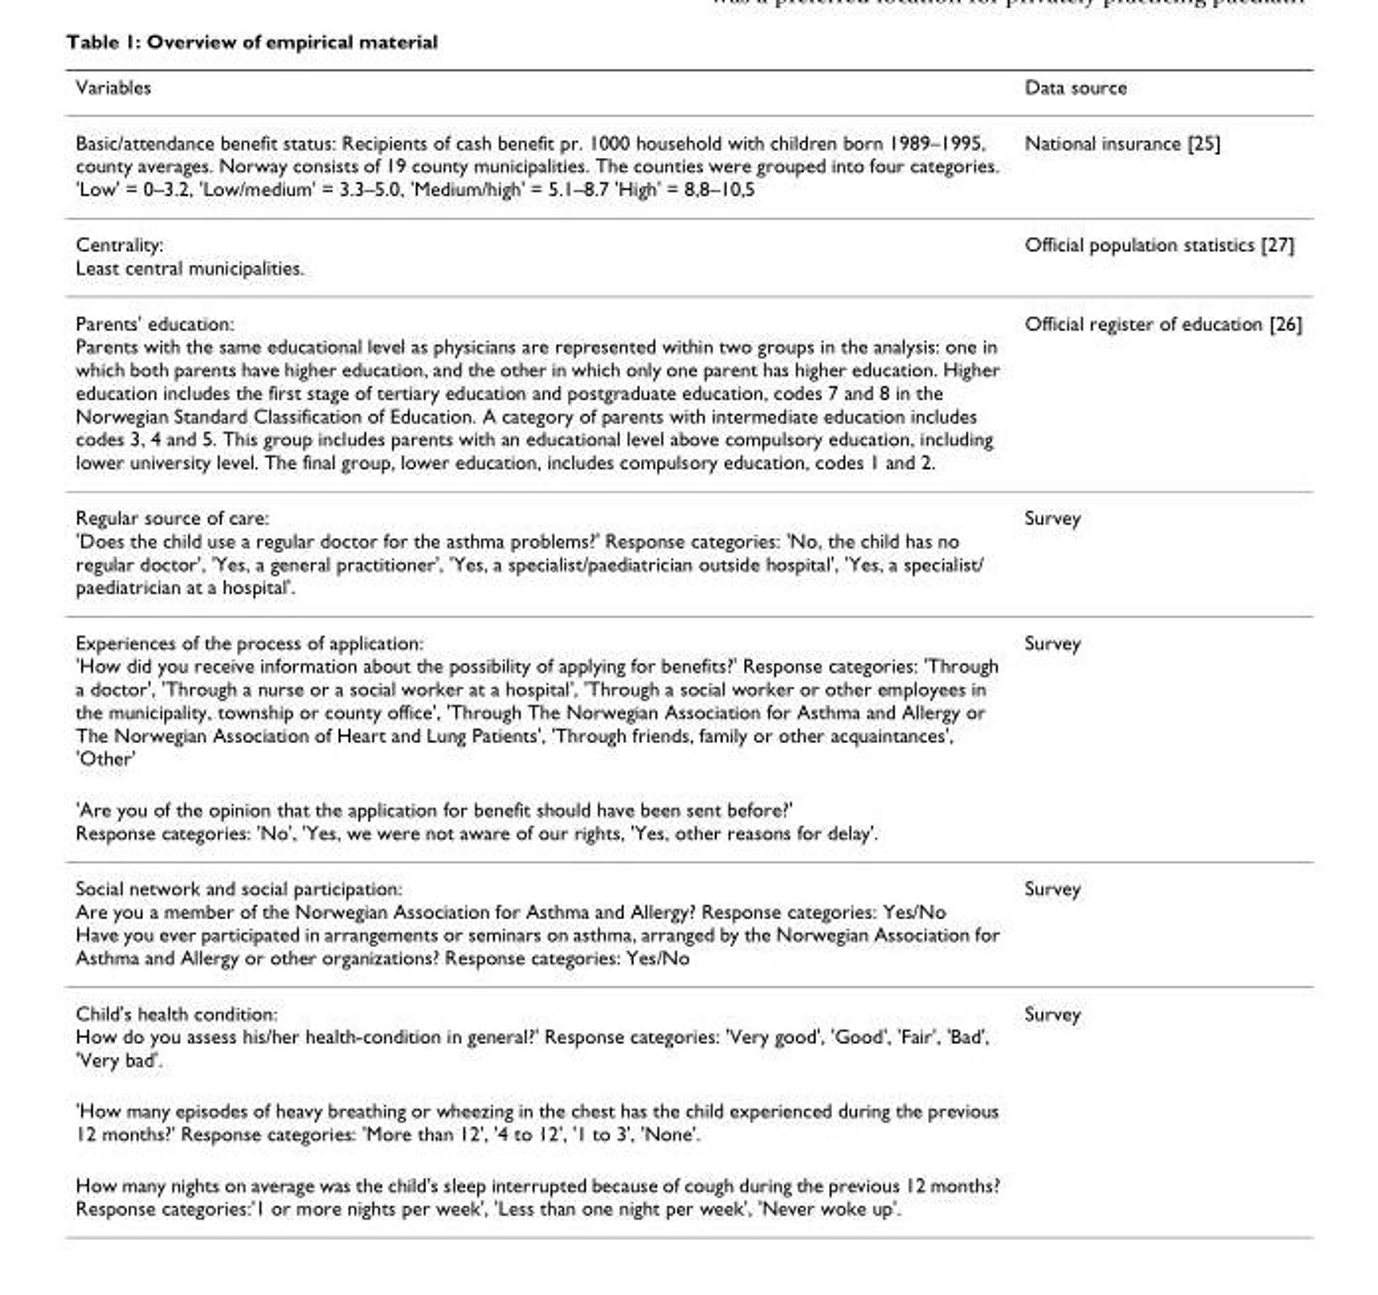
<table><thead><tr><td>Variables</td><td>Data source</td></tr></thead><tbody><tr><td>Basic/attendance benefit status: Recipients of cash benefit pr. 1000 household with children born 1989–1995, county averages. Norway consists of 19 county municipalities. The counties were grouped into four categories. &#x27;Low&#x27; = 0–3.2, &#x27;Low/medium&#x27; = 3.3–5.0, &#x27;Medium/high&#x27; = 5.1–8.7 &#x27;High&#x27; = 8,8–10,5</td><td>National insurance [25]</td></tr><tr><td>Centrality: Least central municipalities.</td><td>Official population statistics [27]</td></tr><tr><td>Parents&#x27; education: Parents with the same educational level as physicians are represented within two groups in the analysis: one in which both parents have higher education, and the other in which only one parent has higher education. Higher education includes the first stage of tertiary education and postgraduate education, codes 7 and 8 in the Norwegian Standard Classification of Education. A category of parents with intermediate education includes codes 3, 4 and 5. This group includes parents with an educational level above compulsory education, including lower university level. The final group, lower education, includes compulsory education, codes 1 and 2.</td><td>Official register of education [26]</td></tr><tr><td>Regular source of care: &#x27;Does the child use a regular doctor for the asthma problems?&#x27; Response categories: &#x27;No, the child has no regular doctor&#x27;, &#x27;Yes, a general practitioner&#x27;, &#x27;Yes, a specialist/paediatrician outside hospital&#x27;, &#x27;Yes, a specialist/ paediatrician at a hospital&#x27;.</td><td>Survey</td></tr><tr><td>Experiences of the process of application: &#x27;How did you receive information about the possibility of applying for benefits?&#x27; Response categories: &#x27;Through a doctor&#x27;, &#x27;Through a nurse or a social worker at a hospital&#x27;, &#x27;Through a social worker or other employees in the municipality, township or county office&#x27;, &#x27;Through The Norwegian Association for Asthma and Allergy or The Norwegian Association of Heart and Lung Patients&#x27;, &#x27;Through friends, family or other acquaintances&#x27;, &#x27;Other&#x27;</td><td>Survey</td></tr><tr><td colspan="2">&#x27;Are you of the opinion that the application for benefit should have been sent before?&#x27; Response categories: &#x27;No&#x27;, &#x27;Yes, we were not aware of our rights, &#x27;Yes, other reasons for delay&#x27;.</td></tr><tr><td>Social network and social participation: Are you a member of the Norwegian Association for Asthma and Allergy? Response categories: Yes/No Have you ever participated in arrangements or seminars on asthma, arranged by the Norwegian Association for Asthma and Allergy or other organizations? Response categories: Yes/No</td><td>Survey</td></tr><tr><td>Child&#x27;s health condition: How do you assess his/her health-condition in general?&#x27; Response categories: &#x27;Very good&#x27;, &#x27;Good&#x27;, &#x27;Fair&#x27;, &#x27;Bad&#x27;, &#x27;Very bad&#x27;.</td><td>Survey</td></tr><tr><td colspan="2">&#x27;How many episodes of heavy breathing or wheezing in the chest has the child experienced during the previous 12 months?&#x27; Response categories: &#x27;More than 12&#x27;, &#x27;4 to 12&#x27;, &#x27;1 to 3&#x27;, &#x27;None&#x27;.</td></tr><tr><td>How many nights on average was the child&#x27;s sleep interrupted because of cough during the previous 12 months? Response categories:&#x27;1 or more nights per week&#x27;, &#x27;Less than one night per week&#x27;, &#x27;Never woke up&#x27;.</td><td></td></tr></tbody></table>